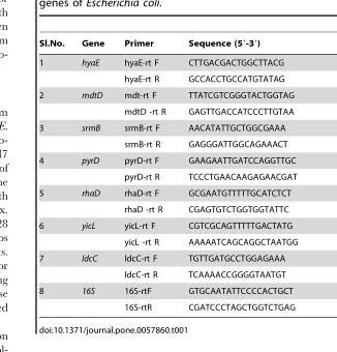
<table><thead><tr><td>Sl.No.</td><td>Gene</td><td>Primer</td><td>Sequence (5′-3′)</td></tr></thead><tbody><tr><td rowspan="2">1</td><td>hyaE</td><td>hyaE-rt F</td><td>CTTGACGACTGGCTTACG</td></tr><tr><td></td><td>hyaE-rt R</td><td>GCCACCTGCCATGTATAG</td></tr><tr><td rowspan="2">2</td><td>mdtD</td><td>mdt-rt F</td><td>TTATCGTCGGGTACTGGTAG</td></tr><tr><td></td><td>mdtD -rt R</td><td>GAGTTGACCATCCCTTGTAA</td></tr><tr><td rowspan="2">3</td><td>srmB</td><td>srmB-rt F</td><td>AACATATTGCTGGCGAAA</td></tr><tr><td></td><td>srmB-rt R</td><td>GAGGGATTGGCAGAAACT</td></tr><tr><td rowspan="2">4</td><td>pyrD</td><td>pyrD-rt F</td><td>GAAGAATTGATCCAGGTTGC</td></tr><tr><td></td><td>pyrD-rt R</td><td>TCCCTGAACAAGAGAACGAT</td></tr><tr><td rowspan="2">5</td><td>rhaD</td><td>rhaD-rt F</td><td>GCGAATGTTTTTGCATCTCT</td></tr><tr><td></td><td>rhaD -rt R</td><td>CGAGTGTCTGGTGGTATTC</td></tr><tr><td rowspan="2">6</td><td>yicL</td><td>yicL-rt F</td><td>CGTCGCAGTTTTTGACTATG</td></tr><tr><td></td><td>yicL -rt R</td><td>AAAAATCAGCAGGCTAATGG</td></tr><tr><td rowspan="2">7</td><td>ldcC</td><td>ldcC-rt F</td><td>TGTTGATGCCTGGAGAAA</td></tr><tr><td></td><td>ldcC-rt R</td><td>TCAAAACCGGGGTAATGT</td></tr><tr><td rowspan="2">8</td><td>16S</td><td>16S-rtF</td><td>GTGCAATATTCCCCACTGCT</td></tr><tr><td></td><td>16S-rtR</td><td>CGATCCCTAGCTGGTCTGAG</td></tr></tbody></table>